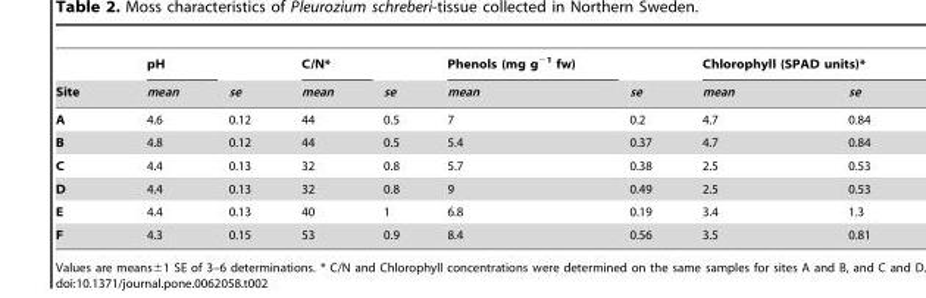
<table><thead><tr><td rowspan="2">Site</td><td rowspan="2">pH mean</td><td rowspan="2">se</td><td rowspan="2">C/N* mean</td><td rowspan="2">se</td><td rowspan="2">Phenols (mg g<sup>−1</sup> fw) mean</td><td rowspan="2">se</td><td colspan="2">Chlorophyll (SPAD units)*</td></tr><tr><td>mean</td><td>se</td></tr></thead><tbody><tr><td>A</td><td>4.6</td><td>0.12</td><td>44</td><td>0.5</td><td>7</td><td>0.2</td><td>4.7</td><td>0.84</td></tr><tr><td>B</td><td>4.8</td><td>0.12</td><td>44</td><td>0.5</td><td>5.4</td><td>0.37</td><td>4.7</td><td>0.84</td></tr><tr><td>C</td><td>4.4</td><td>0.13</td><td>32</td><td>0.8</td><td>5.7</td><td>0.38</td><td>2.5</td><td>0.53</td></tr><tr><td>D</td><td>4.4</td><td>0.13</td><td>32</td><td>0.8</td><td>9</td><td>0.49</td><td>2.5</td><td>0.53</td></tr><tr><td>E</td><td>4.4</td><td>0.13</td><td>40</td><td>1</td><td>6.8</td><td>0.19</td><td>3.4</td><td>1.3</td></tr><tr><td>F</td><td>4.3</td><td>0.15</td><td>53</td><td>0.9</td><td>8.4</td><td>0.56</td><td>3.5</td><td>0.81</td></tr></tbody></table>